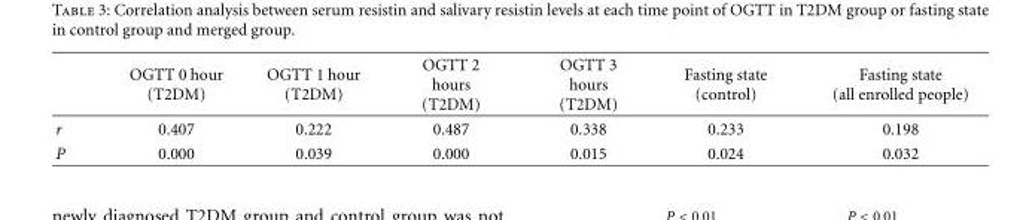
<table><thead><tr><td></td><td>OGTT 0 hour (T2DM)</td><td>OGTT 1 hour (T2DM)</td><td>OGTT 2 hours (T2DM)</td><td>OGTT 3 hours (T2DM)</td><td>Fasting state (control)</td><td>Fasting state (all enrolled people)</td></tr></thead><tbody><tr><td>r</td><td>0.407</td><td>0.222</td><td>0.487</td><td>0.338</td><td>0.233</td><td>0.198</td></tr><tr><td>P</td><td>0.000</td><td>0.039</td><td>0.000</td><td>0.015</td><td>0.024</td><td>0.032</td></tr></tbody></table>